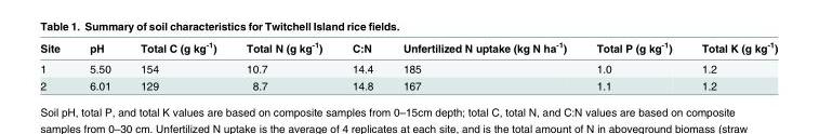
<table><thead><tr><td>Site</td><td>pH</td><td>Total C (g kg<sup>-1</sup>)</td><td>Total N (g kg<sup>-1</sup>)</td><td>C:N</td><td>Unfertilized N uptake (kg N ha<sup>-1</sup>)</td><td>Total P (g kg<sup>-1</sup>)</td><td>Total K (g kg<sup>-1</sup>)</td></tr></thead><tbody><tr><td>1</td><td>5.50</td><td>154</td><td>10.7</td><td>14.4</td><td>185</td><td>1.0</td><td>1.2</td></tr><tr><td>2</td><td>6.01</td><td>129</td><td>8.7</td><td>14.8</td><td>167</td><td>1.1</td><td>1.2</td></tr></tbody></table>